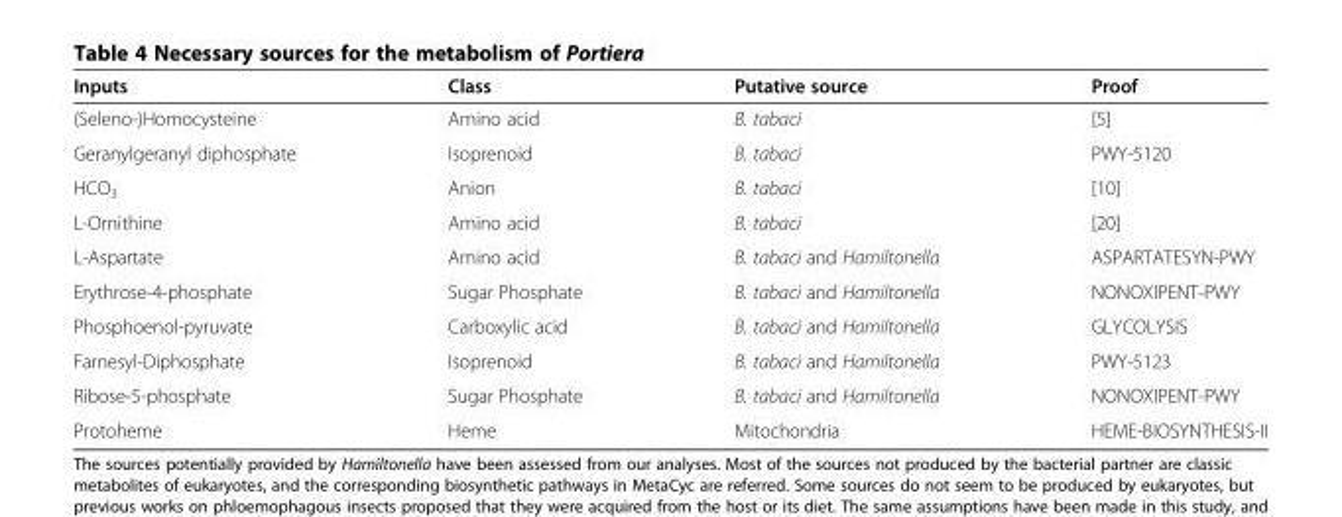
<table><thead><tr><td>Inputs</td><td>Class</td><td>Putative source</td><td>Proof</td></tr></thead><tbody><tr><td>(Seleno-)Homocysteine</td><td>Amino acid</td><td>B. tabaci</td><td>[5]</td></tr><tr><td>Geranylgeranyl diphosphate</td><td>Isoprenoid</td><td>B. tabaci</td><td>PWY-5120</td></tr><tr><td>HCO<sub>3</sub></td><td>Anion</td><td>B. tabaci</td><td>[10]</td></tr><tr><td>L-Ornithine</td><td>Amino acid</td><td>B. tabaci</td><td>[20]</td></tr><tr><td>L-Aspartate</td><td>Amino acid</td><td>B. tabaci and Hamiltonella</td><td>ASPARTATESYN-PWY</td></tr><tr><td>Erythrose-4-phosphate</td><td>Sugar Phosphate</td><td>B. tabaci and Hamiltonella</td><td>NONOXIPENT-PWY</td></tr><tr><td>Phosphoenol-pyruvate</td><td>Carboxylic acid</td><td>B. tabaci and Hamiltonella</td><td>GLYCOLYSIS</td></tr><tr><td>Farnesyl-Diphosphate</td><td>Isoprenoid</td><td>B. tabaci and Hamiltonella</td><td>PWY-5123</td></tr><tr><td>Ribose-5-phosphate</td><td>Sugar Phosphate</td><td>B. tabaci and Hamiltonella</td><td>NONOXIPENT-PWY</td></tr><tr><td>Protoheme</td><td>Heme</td><td>Mitochondria</td><td>HEME-BIOSYNTHESIS-II</td></tr></tbody></table>